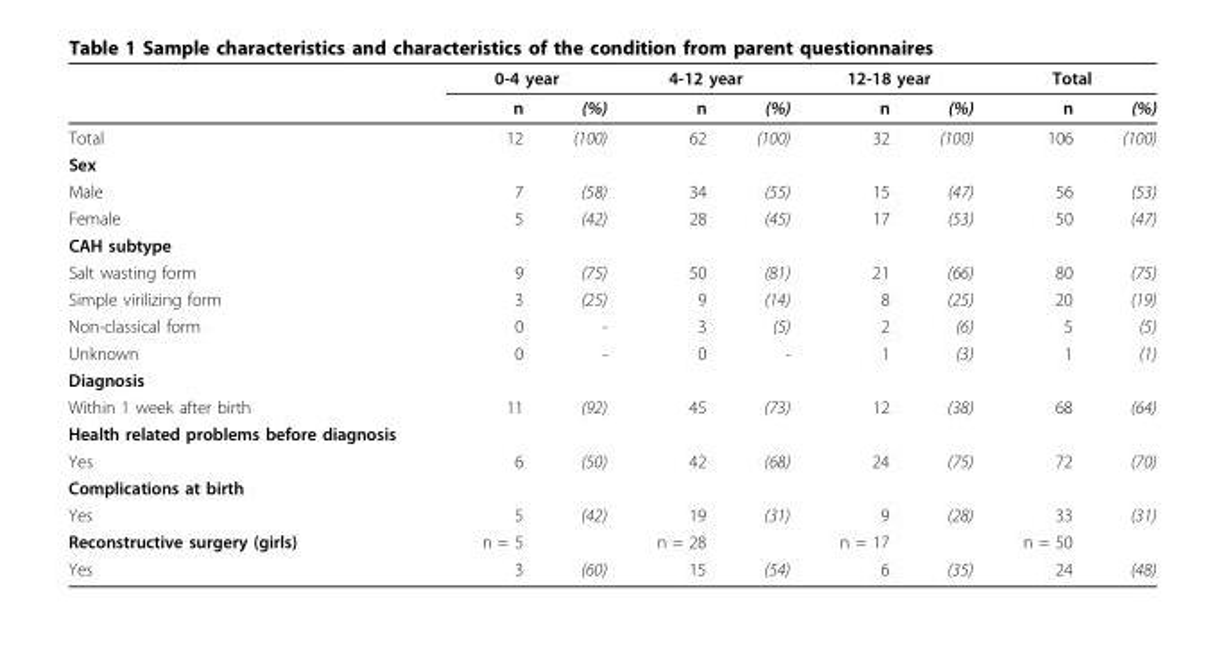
<table><thead><tr><td rowspan="2"></td><td colspan="2">0-4 year</td><td colspan="2">4-12 year</td><td colspan="2">12-18 year</td><td colspan="2">Total</td></tr><tr><td>n</td><td>(%)</td><td>n</td><td>(%)</td><td>n</td><td>(%)</td><td>n</td><td>(%)</td></tr></thead><tbody><tr><td>Total</td><td>12</td><td>(100)</td><td>62</td><td>(100)</td><td>32</td><td>(100)</td><td>106</td><td>(100)</td></tr><tr><td colspan="9">Sex</td></tr><tr><td>Male</td><td>7</td><td>(58)</td><td>34</td><td>(55)</td><td>15</td><td>(47)</td><td>56</td><td>(53)</td></tr><tr><td>Female</td><td>5</td><td>(42)</td><td>28</td><td>(45)</td><td>17</td><td>(53)</td><td>50</td><td>(47)</td></tr><tr><td colspan="9">CAH subtype</td></tr><tr><td>Salt wasting form</td><td>9</td><td>(75)</td><td>50</td><td>(81)</td><td>21</td><td>(66)</td><td>80</td><td>(75)</td></tr><tr><td>Simple virilizing form</td><td>3</td><td>(25)</td><td>9</td><td>(14)</td><td>8</td><td>(25)</td><td>20</td><td>(19)</td></tr><tr><td>Non-classical form</td><td>0</td><td>-</td><td>3</td><td>(5)</td><td>2</td><td>(6)</td><td>5</td><td>(5)</td></tr><tr><td>Unknown</td><td>0</td><td>-</td><td>0</td><td>-</td><td>1</td><td>(3)</td><td>1</td><td>(1)</td></tr><tr><td colspan="9">Diagnosis</td></tr><tr><td>Within 1 week after birth</td><td>11</td><td>(92)</td><td>45</td><td>(73)</td><td>12</td><td>(38)</td><td>68</td><td>(64)</td></tr><tr><td colspan="9">Health related problems before diagnosis</td></tr><tr><td>Yes</td><td>6</td><td>(50)</td><td>42</td><td>(68)</td><td>24</td><td>(75)</td><td>72</td><td>(70)</td></tr><tr><td colspan="9">Complications at birth</td></tr><tr><td>Yes</td><td>5</td><td>(42)</td><td>19</td><td>(31)</td><td>9</td><td>(28)</td><td>33</td><td>(31)</td></tr><tr><td>Reconstructive surgery (girls)</td><td>n = 5</td><td></td><td>n = 28</td><td></td><td>n = 17</td><td></td><td>n = 50</td><td></td></tr><tr><td>Yes</td><td>3</td><td>(60)</td><td>15</td><td>(54)</td><td>6</td><td>(35)</td><td>24</td><td>(48)</td></tr></tbody></table>